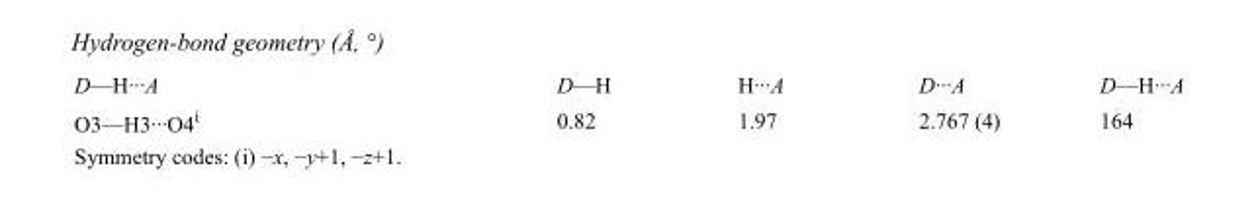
<table><tbody><tr><td>D—H···A</td><td>D—H</td><td>H···A</td><td>D···A</td><td>D—H···A</td></tr><tr><td>O3—H3···O4<sup>i</sup></td><td>0.82</td><td>1.97</td><td>2.767 (4)</td><td>164</td></tr></tbody></table>